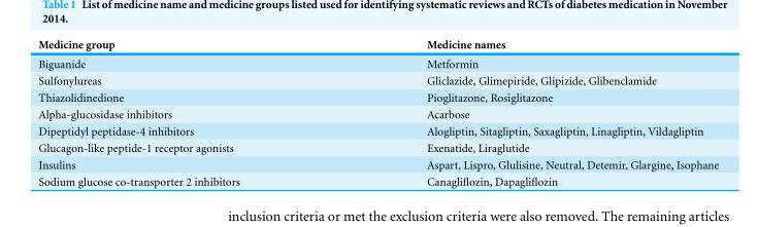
<table><thead><tr><td>Medicine group</td><td>Medicine names</td></tr></thead><tbody><tr><td>Biguanide</td><td>Metformin</td></tr><tr><td>Sulfonylureas</td><td>Gliclazide, Glimepiride, Glipizide, Glibenclamide</td></tr><tr><td>Thiazolidinedione</td><td>Pioglitazone, Rosiglitazone</td></tr><tr><td>Alpha-glucosidase inhibitors</td><td>Acarbose</td></tr><tr><td>Dipeptidyl peptidase-4 inhibitors</td><td>Alogliptin, Sitagliptin, Saxagliptin, Linagliptin, Vildagliptin</td></tr><tr><td>Glucagon-like peptide-1 receptor agonists</td><td>Exenatide, Liraglutide</td></tr><tr><td>Insulins</td><td>Aspart, Lispro, Glulisine, Neutral, Detemir, Glargine, Isophane</td></tr><tr><td>Sodium glucose co-transporter 2 inhibitors</td><td>Canagliflozin, Dapagliflozin</td></tr></tbody></table>